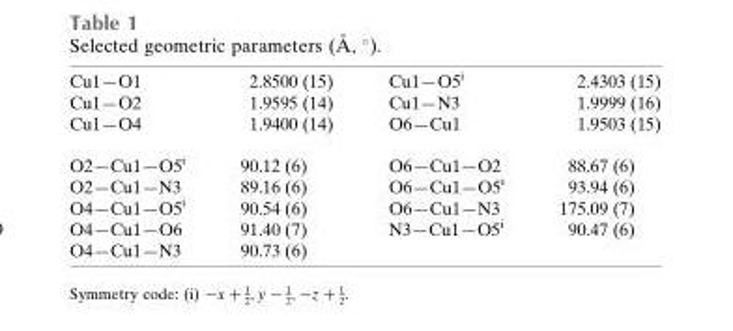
<table><tbody><tr><td>Cu1—O1</td><td>2.8500 (15)</td><td>Cu1—O5<sup>i</sup></td><td>2.4303 (15)</td></tr><tr><td>Cu1—O2</td><td>1.9595 (14)</td><td>Cu1—N3</td><td>1.9999 (16)</td></tr><tr><td>Cu1—O4</td><td>1.9400 (14)</td><td>O6—Cu1</td><td>1.9503 (15)</td></tr><tr><td>O2—Cu1—O5<sup>i</sup></td><td>90.12 (6)</td><td>O6—Cu1—O2</td><td>88.67 (6)</td></tr><tr><td>O2—Cu1—N3</td><td>89.16 (6)</td><td>O6—Cu1—O5<sup>i</sup></td><td>93.94 (6)</td></tr><tr><td>O4—Cu1—O5<sup>i</sup></td><td>90.54 (6)</td><td>O6—Cu1—N3</td><td>175.09 (7)</td></tr><tr><td>O4—Cu1—O6</td><td>91.40 (7)</td><td>N3—Cu1—O5<sup>i</sup></td><td>90.47 (6)</td></tr><tr><td>O4—Cu1—N3</td><td>90.73 (6)</td><td></td><td></td></tr></tbody></table>